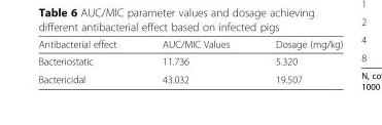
<table><thead><tr><td>Antibacterial effect</td><td>AUC/MIC Values</td><td>Dosage (mg/kg)</td></tr></thead><tbody><tr><td>Bacteriostatic</td><td>11.736</td><td>5.320</td></tr><tr><td>Bactericidal</td><td>43.032</td><td>19.507</td></tr></tbody></table>